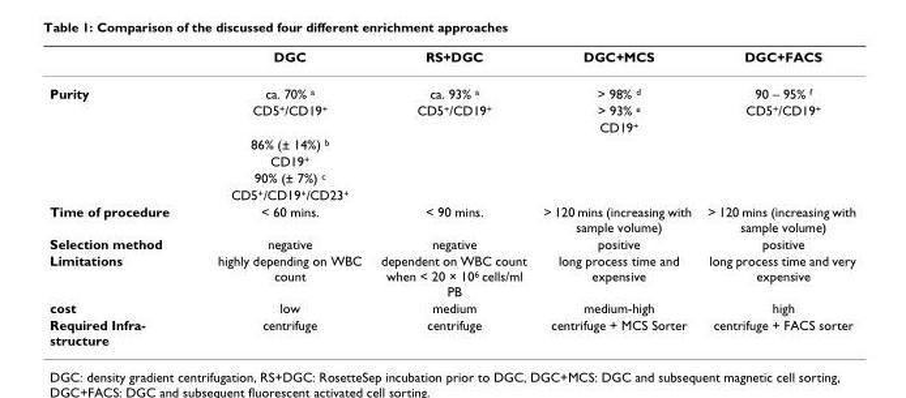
<table><thead><tr><td></td><td>DGC</td><td>RS+DGC</td><td>DGC+MCS</td><td>DGC+FACS</td></tr></thead><tbody><tr><td rowspan="7">Purity</td><td>ca. 70% <sup>a</sup></td><td>ca. 93% <sup>a</sup></td><td>&gt; 98% <sup>d</sup></td><td>90 – 95% <sup>f</sup></td></tr><tr><td>CD5<sup>+</sup>/CD19<sup>+</sup></td><td>CD5<sup>+</sup>/CD19<sup>+</sup></td><td>&gt; 93% <sup>e</sup></td><td>CD5<sup>+</sup>/CD19<sup>+</sup></td></tr><tr><td></td><td></td><td>CD19<sup>+</sup></td><td></td></tr><tr><td>86% (± 14%) <sup>b</sup></td><td></td><td></td><td></td></tr><tr><td>CD19<sup>+</sup></td><td></td><td></td><td></td></tr><tr><td>90% (± 7%) <sup>c</sup></td><td></td><td></td><td></td></tr><tr><td>CD5<sup>+</sup>/CD19<sup>+</sup>/CD23<sup>+</sup></td><td></td><td></td><td></td></tr><tr><td>Time of procedure</td><td>&lt; 60 mins.</td><td>&lt; 90 mins.</td><td>&gt; 120 mins (increasing with sample volume)</td><td>&gt; 120 mins (increasing with sample volume)</td></tr><tr><td>Selection method</td><td>negative</td><td>negative</td><td>positive</td><td>positive</td></tr><tr><td>Limitations</td><td>highly depending on WBC count</td><td>dependent on WBC count when &lt; 20 × 10<sup>6</sup> cells/ml PB</td><td>long process time and expensive</td><td>long process time and very expensive</td></tr><tr><td>cost</td><td>low</td><td>medium</td><td>medium-high</td><td>high</td></tr><tr><td>Required Infra- structure</td><td>centrifuge</td><td>centrifuge</td><td>centrifuge + MCS Sorter</td><td>centrifuge + FACS sorter</td></tr></tbody></table>